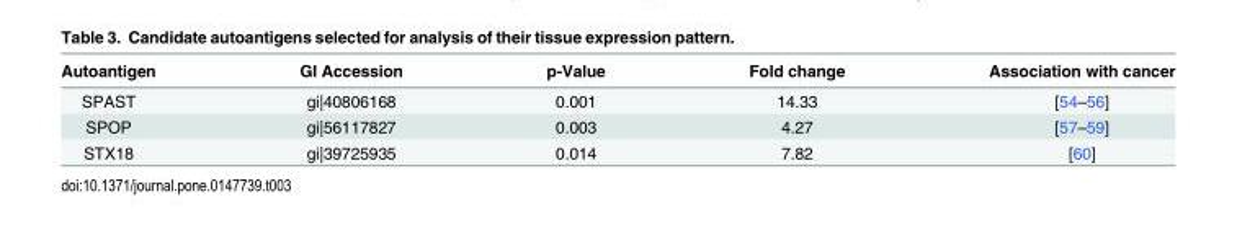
<table><thead><tr><td>Autoantigen</td><td>GI Accession</td><td>p-Value</td><td>Fold change</td><td>Association with cancer</td></tr></thead><tbody><tr><td>SPAST</td><td>gi|40806168</td><td>0.001</td><td>14.33</td><td>[54–56]</td></tr><tr><td>SPOP</td><td>gi|56117827</td><td>0.003</td><td>4.27</td><td>[57–59]</td></tr><tr><td>STX18</td><td>gi|39725935</td><td>0.014</td><td>7.82</td><td>[60]</td></tr></tbody></table>